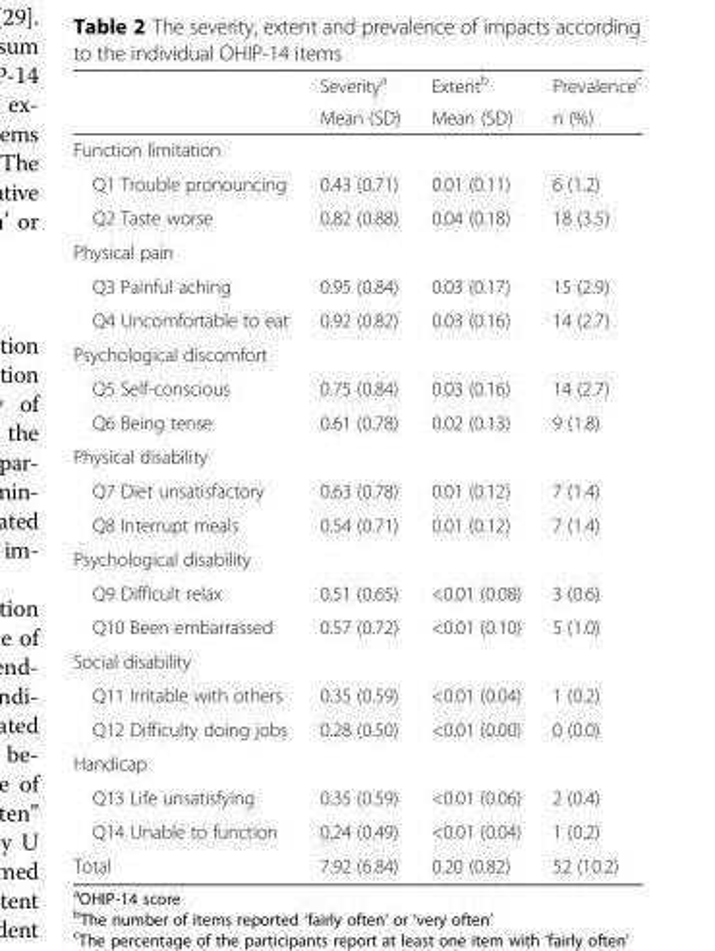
<table><thead><tr><td rowspan="2"></td><td rowspan="2">Severity<sup>a</sup> Mean (SD)</td><td rowspan="2">Extent<sup>b</sup> Mean (SD)</td><td rowspan="2">Prevalence<sup>c</sup> n (%)</td></tr><tr></tr></thead><tbody><tr><td colspan="4">Function limitation</td></tr><tr><td>Q1 Trouble pronouncing</td><td>0.43 (0.71)</td><td>0.01 (0.11)</td><td>6 (1.2)</td></tr><tr><td>Q2 Taste worse</td><td>0.82 (0.88)</td><td>0.04 (0.18)</td><td>18 (3.5)</td></tr><tr><td colspan="4">Physical pain</td></tr><tr><td>Q3 Painful aching</td><td>0.95 (0.84)</td><td>0.03 (0.17)</td><td>15 (2.9)</td></tr><tr><td>Q4 Uncomfortable to eat</td><td>0.92 (0.82)</td><td>0.03 (0.16)</td><td>14 (2.7)</td></tr><tr><td colspan="4">Psychological discomfort</td></tr><tr><td>Q5 Self-conscious</td><td>0.75 (0.84)</td><td>0.03 (0.16)</td><td>14 (2.7)</td></tr><tr><td>Q6 Being tense</td><td>0.61 (0.78)</td><td>0.02 (0.13)</td><td>9 (1.8)</td></tr><tr><td colspan="4">Physical disability</td></tr><tr><td>Q7 Diet unsatisfactory</td><td>0.63 (0.78)</td><td>0.01 (0.12)</td><td>7 (1.4)</td></tr><tr><td>Q8 Interrupt meals</td><td>0.54 (0.71)</td><td>0.01 (0.12)</td><td>7 (1.4)</td></tr><tr><td colspan="4">Psychological disability</td></tr><tr><td>Q9 Difficult relax</td><td>0.51 (0.65)</td><td>&lt;0.01 (0.08)</td><td>3 (0.6)</td></tr><tr><td>Q10 Been embarrassed</td><td>0.57 (0.72)</td><td>&lt;0.01 (0.10)</td><td>5 (1.0)</td></tr><tr><td colspan="4">Social disability</td></tr><tr><td>Q11 Irritable with others</td><td>0.35 (0.59)</td><td>&lt;0.01 (0.04)</td><td>1 (0.2)</td></tr><tr><td>Q12 Difficulty doing jobs</td><td>0.28 (0.50)</td><td>&lt;0.01 (0.00)</td><td>0 (0.0)</td></tr><tr><td colspan="4">Handicap</td></tr><tr><td>Q13 Life unsatisfying</td><td>0.35 (0.59)</td><td>&lt;0.01 (0.06)</td><td>2 (0.4)</td></tr><tr><td>Q14 Unable to function</td><td>0.24 (0.49)</td><td>&lt;0.01 (0.04)</td><td>1 (0.2)</td></tr><tr><td>Total</td><td>7.92 (6.84)</td><td>0.20 (0.82)</td><td>52 (10.2)</td></tr></tbody></table>